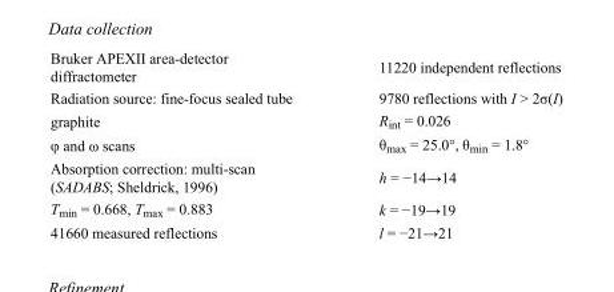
<table><tbody><tr><td>Bruker APEXII area-detector diffractometer</td><td>11220 independent reflections</td></tr><tr><td>Radiation source: fine-focus sealed tube</td><td>9780 reflections with I &gt; 2σ(I)</td></tr><tr><td>graphite</td><td>R<sub>int</sub> = 0.026</td></tr><tr><td>φ and ω scans</td><td>θ<sub>max</sub> = 25.0°, θ<sub>min</sub> = 1.8°</td></tr><tr><td>Absorption correction: multi-scan (SADABS; Sheldrick, 1996)</td><td>h = −14→14</td></tr><tr><td>T<sub>min</sub> = 0.668, T<sub>max</sub> = 0.883</td><td>k = −19→19</td></tr><tr><td>41660 measured reflections</td><td>l = −21→21</td></tr></tbody></table>